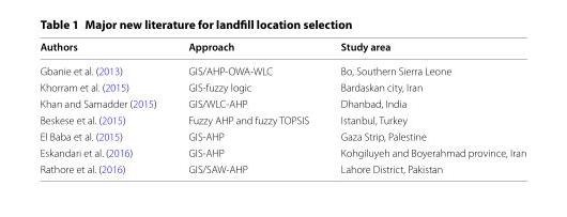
<table><thead><tr><td>Authors</td><td>Approach</td><td>Study area</td></tr></thead><tbody><tr><td>Gbanie et al. (2013)</td><td>GIS/AHP-OWA-WLC</td><td>Bo, Southern Sierra Leone</td></tr><tr><td>Khorram et al. (2015)</td><td>GIS-fuzzy logic</td><td>Bardaskan city, Iran</td></tr><tr><td>Khan and Samadder (2015)</td><td>GIS/WLC-AHP</td><td>Dhanbad, India</td></tr><tr><td>Beskese et al. (2015)</td><td>Fuzzy AHP and fuzzy TOPSIS</td><td>Istanbul, Turkey</td></tr><tr><td>El Baba et al. (2015)</td><td>GIS-AHP</td><td>Gaza Strip, Palestine</td></tr><tr><td>Eskandari et al. (2016)</td><td>GIS-AHP</td><td>Kohgiluyeh and Boyerahmad province, Iran</td></tr><tr><td>Rathore et al. (2016)</td><td>GIS/SAW-AHP</td><td>Lahore District, Pakistan</td></tr></tbody></table>